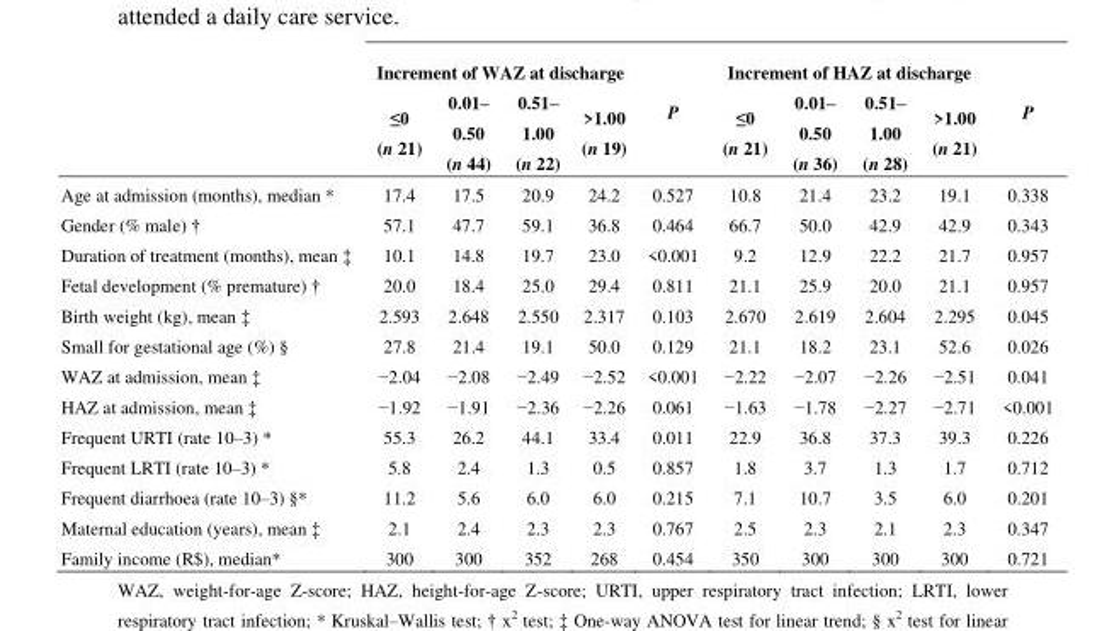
<table><thead><tr><td rowspan="2"></td><td colspan="4">Increment of WAZ at discharge</td><td rowspan="2">P</td><td colspan="4">Increment of HAZ at discharge</td><td rowspan="2">P</td></tr><tr><td>≤0 (n 21)</td><td>0.01– 0.50 (n 44)</td><td>0.51– 1.00 (n 22)</td><td>&gt;1.00 (n 19)</td><td>≤0 (n 21)</td><td>0.01– 0.50 (n 36)</td><td>0.51– 1.00 (n 28)</td><td>&gt;1.00 (n 21)</td></tr></thead><tbody><tr><td>Age at admission (months), median *</td><td>17.4</td><td>17.5</td><td>20.9</td><td>24.2</td><td>0.527</td><td>10.8</td><td>21.4</td><td>23.2</td><td>19.1</td><td>0.338</td></tr><tr><td>Gender (% male) †</td><td>57.1</td><td>47.7</td><td>59.1</td><td>36.8</td><td>0.464</td><td>66.7</td><td>50.0</td><td>42.9</td><td>42.9</td><td>0.343</td></tr><tr><td>Duration of treatment (months), mean ‡</td><td>10.1</td><td>14.8</td><td>19.7</td><td>23.0</td><td>&lt;0.001</td><td>9.2</td><td>12.9</td><td>22.2</td><td>21.7</td><td>0.957</td></tr><tr><td>Fetal development (% premature) †</td><td>20.0</td><td>18.4</td><td>25.0</td><td>29.4</td><td>0.811</td><td>21.1</td><td>25.9</td><td>20.0</td><td>21.1</td><td>0.957</td></tr><tr><td>Birth weight (kg), mean ‡</td><td>2.593</td><td>2.648</td><td>2.550</td><td>2.317</td><td>0.103</td><td>2.670</td><td>2.619</td><td>2.604</td><td>2.295</td><td>0.045</td></tr><tr><td>Small for gestational age (%) §</td><td>27.8</td><td>21.4</td><td>19.1</td><td>50.0</td><td>0.129</td><td>21.1</td><td>18.2</td><td>23.1</td><td>52.6</td><td>0.026</td></tr><tr><td>WAZ at admission, mean ‡</td><td>−2.04</td><td>−2.08</td><td>−2.49</td><td>−2.52</td><td>&lt;0.001</td><td>−2.22</td><td>−2.07</td><td>−2.26</td><td>−2.51</td><td>0.041</td></tr><tr><td>HAZ at admission, mean ‡</td><td>−1.92</td><td>−1.91</td><td>−2.36</td><td>−2.26</td><td>0.061</td><td>−1.63</td><td>−1.78</td><td>−2.27</td><td>−2.71</td><td>&lt;0.001</td></tr><tr><td>Frequent URTI (rate 10–3) *</td><td>55.3</td><td>26.2</td><td>44.1</td><td>33.4</td><td>0.011</td><td>22.9</td><td>36.8</td><td>37.3</td><td>39.3</td><td>0.226</td></tr><tr><td>Frequent LRTI (rate 10–3) *</td><td>5.8</td><td>2.4</td><td>1.3</td><td>0.5</td><td>0.857</td><td>1.8</td><td>3.7</td><td>1.3</td><td>1.7</td><td>0.712</td></tr><tr><td>Frequent diarrhoea (rate 10–3) §*</td><td>11.2</td><td>5.6</td><td>6.0</td><td>6.0</td><td>0.215</td><td>7.1</td><td>10.7</td><td>3.5</td><td>6.0</td><td>0.201</td></tr><tr><td>Maternal education (years), mean ‡</td><td>2.1</td><td>2.4</td><td>2.3</td><td>2.3</td><td>0.767</td><td>2.5</td><td>2.3</td><td>2.1</td><td>2.3</td><td>0.347</td></tr><tr><td>Family income (R$), median*</td><td>300</td><td>300</td><td>352</td><td>268</td><td>0.454</td><td>350</td><td>300</td><td>300</td><td>300</td><td>0.721</td></tr></tbody></table>